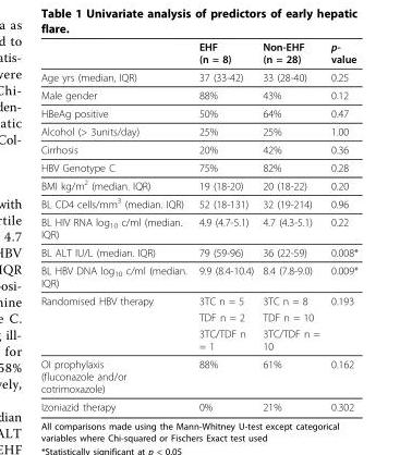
<table><thead><tr><td></td><td>EHF (n = 8)</td><td>Non-EHF (n = 28)</td><td>p- value</td></tr></thead><tbody><tr><td>Age yrs (median, IQR)</td><td>37 (33-42)</td><td>33 (28-40)</td><td>0.25</td></tr><tr><td>Male gender</td><td>88%</td><td>43%</td><td>0.12</td></tr><tr><td>HBeAg positive</td><td>50%</td><td>64%</td><td>0.47</td></tr><tr><td>Alcohol (&gt; 3units/day)</td><td>25%</td><td>25%</td><td>1.00</td></tr><tr><td>Cirrhosis</td><td>20%</td><td>42%</td><td>0.36</td></tr><tr><td>HBV Genotype C</td><td>75%</td><td>82%</td><td>0.28</td></tr><tr><td>BMI kg/m<sup>2</sup> (median. IQR)</td><td>19 (18-20)</td><td>20 (18-22)</td><td>0.20</td></tr><tr><td>BL CD4 cells/mm<sup>3</sup> (median. IQR)</td><td>52 (18-131)</td><td>32 (19-214)</td><td>0.96</td></tr><tr><td>BL HIV RNA log<sub>10</sub> c/ml (median. IQR)</td><td>4.9 (4.7-5.1)</td><td>4.7 (4.3-5.1)</td><td>0.22</td></tr><tr><td>BL ALT IU/L (median. IQR)</td><td>79 (59-96)</td><td>36 (22-59)</td><td>0.008*</td></tr><tr><td>BL HBV DNA log<sub>10</sub> c/ml (median. IQR)</td><td>9.9 (8.4-10.4)</td><td>8.4 (7.8-9.0)</td><td>0.009*</td></tr><tr><td rowspan="3">Randomised HBV therapy</td><td>3TC n = 5</td><td>3TC n = 8</td><td>0.193</td></tr><tr><td>TDF n = 2</td><td>TDF n = 10</td><td></td></tr><tr><td>3TC/TDF n = 1</td><td>3TC/TDF n = 10</td><td></td></tr><tr><td>OI prophylaxis (fluconazole and/or cotrimoxazole)</td><td>88%</td><td>61%</td><td>0.162</td></tr><tr><td>Izoniazid therapy</td><td>0%</td><td>21%</td><td>0.302</td></tr></tbody></table>